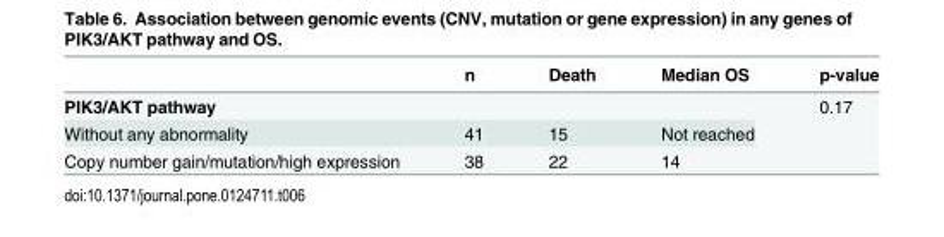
<table><thead><tr><td></td><td>n</td><td>Death</td><td>Median OS</td><td>p-value</td></tr></thead><tbody><tr><td colspan="4">PIK3/AKT pathway</td><td rowspan="3">0.17</td></tr><tr><td>Without any abnormality</td><td>41</td><td>15</td><td>Not reached</td></tr><tr><td>Copy number gain/mutation/high expression</td><td>38</td><td>22</td><td>14</td></tr></tbody></table>